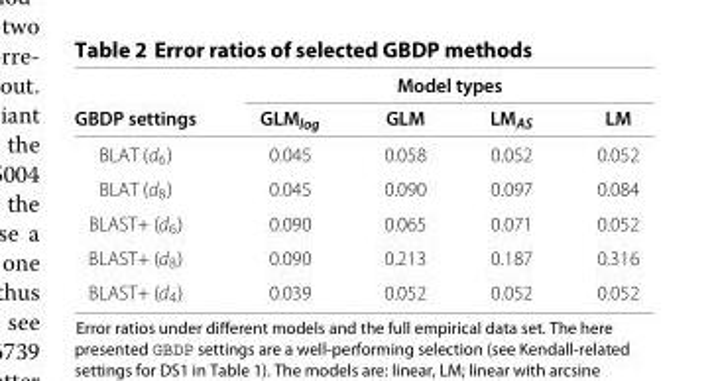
<table><thead><tr><td rowspan="2">GBDP settings</td><td colspan="4">Model types</td></tr><tr><td>GLM<sub>log</sub></td><td>GLM</td><td>LM<sub>AS</sub></td><td>LM</td></tr></thead><tbody><tr><td>BLAT (d<sub>6</sub>)</td><td>0.045</td><td>0.058</td><td>0.052</td><td>0.052</td></tr><tr><td>BLAT (d<sub>8</sub>)</td><td>0.045</td><td>0.090</td><td>0.097</td><td>0.084</td></tr><tr><td>BLAST+ (d<sub>6</sub>)</td><td>0.090</td><td>0.065</td><td>0.071</td><td>0.052</td></tr><tr><td>BLAST+ (d<sub>8</sub>)</td><td>0.090</td><td>0.213</td><td>0.187</td><td>0.316</td></tr><tr><td>BLAST+ (d<sub>4</sub>)</td><td>0.039</td><td>0.052</td><td>0.052</td><td>0.052</td></tr></tbody></table>